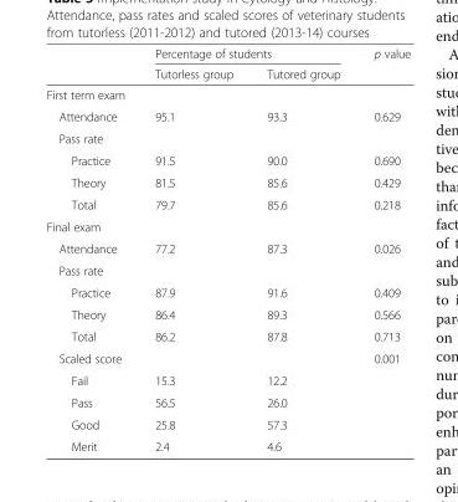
<table><thead><tr><td rowspan="2"></td><td colspan="2">Percentage of students</td><td rowspan="2">p value</td></tr><tr><td>Tutorless group</td><td>Tutored group</td></tr></thead><tbody><tr><td colspan="4">First term exam</td></tr><tr><td>Attendance</td><td>95.1</td><td>93.3</td><td>0.629</td></tr><tr><td colspan="4">Pass rate</td></tr><tr><td>Practice</td><td>91.5</td><td>90.0</td><td>0.690</td></tr><tr><td>Theory</td><td>81.5</td><td>85.6</td><td>0.429</td></tr><tr><td>Total</td><td>79.7</td><td>85.6</td><td>0.218</td></tr><tr><td colspan="4">Final exam</td></tr><tr><td>Attendance</td><td>77.2</td><td>87.3</td><td>0.026</td></tr><tr><td colspan="4">Pass rate</td></tr><tr><td>Practice</td><td>87.9</td><td>91.6</td><td>0.409</td></tr><tr><td>Theory</td><td>86.4</td><td>89.3</td><td>0.566</td></tr><tr><td>Total</td><td>86.2</td><td>87.8</td><td>0.713</td></tr><tr><td>Scaled score</td><td></td><td></td><td>0.001</td></tr><tr><td>Fail</td><td>15.3</td><td>12.2</td><td></td></tr><tr><td>Pass</td><td>56.5</td><td>26.0</td><td></td></tr><tr><td>Good</td><td>25.8</td><td>57.3</td><td></td></tr><tr><td>Merit</td><td>2.4</td><td>4.6</td><td></td></tr></tbody></table>